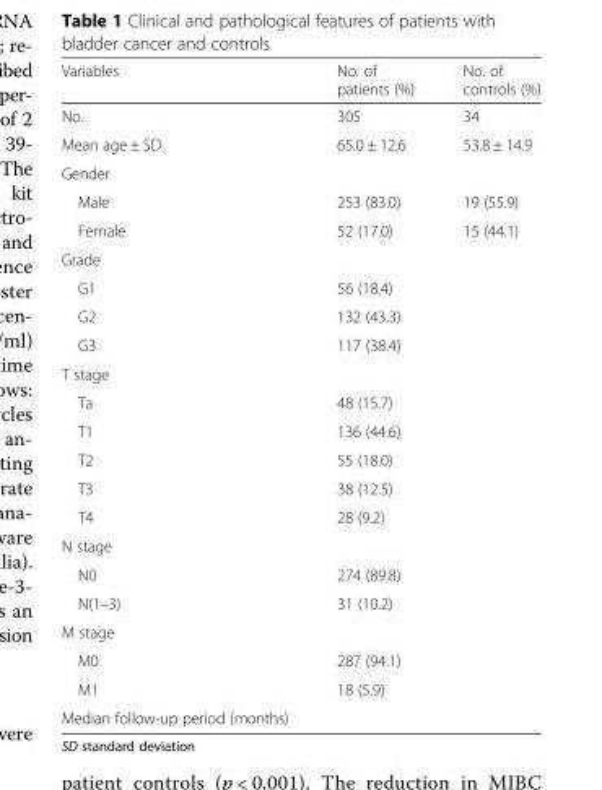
<table><thead><tr><td>Variables</td><td>No. of patients (%)</td><td>No. of controls (%)</td></tr></thead><tbody><tr><td>No.</td><td>305</td><td>34</td></tr><tr><td>Mean age ± SD</td><td>65.0 ± 12.6</td><td>53.8 ± 14.9</td></tr><tr><td colspan="3">Gender</td></tr><tr><td>Male</td><td>253 (83.0)</td><td>19 (55.9)</td></tr><tr><td>Female</td><td>52 (17.0)</td><td>15 (44.1)</td></tr><tr><td colspan="3">Grade</td></tr><tr><td>G1</td><td>56 (18.4)</td><td></td></tr><tr><td>G2</td><td>132 (43.3)</td><td></td></tr><tr><td>G3</td><td>117 (38.4)</td><td></td></tr><tr><td colspan="3">T stage</td></tr><tr><td>Ta</td><td>48 (15.7)</td><td></td></tr><tr><td>T1</td><td>136 (44.6)</td><td></td></tr><tr><td>T2</td><td>55 (18.0)</td><td></td></tr><tr><td>T3</td><td>38 (12.5)</td><td></td></tr><tr><td>T4</td><td>28 (9.2)</td><td></td></tr><tr><td colspan="3">N stage</td></tr><tr><td>N0</td><td>274 (89.8)</td><td></td></tr><tr><td>N(1–3)</td><td>31 (10.2)</td><td></td></tr><tr><td colspan="3">M stage</td></tr><tr><td>M0</td><td>287 (94.1)</td><td></td></tr><tr><td>M1</td><td>18 (5.9)</td><td></td></tr><tr><td>Median follow-up period (months)</td><td></td><td></td></tr></tbody></table>